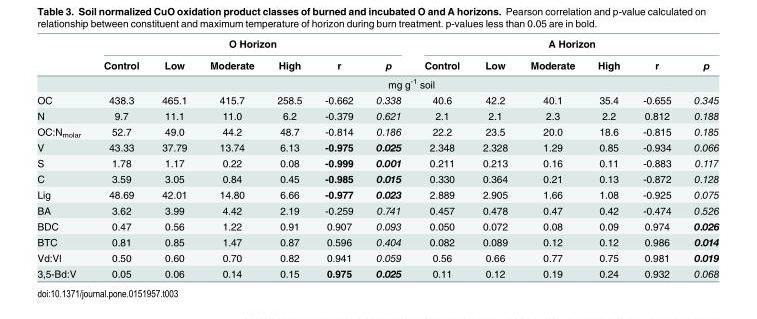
<table><thead><tr><td rowspan="2"></td><td colspan="6">O Horizon</td><td colspan="6">A Horizon</td></tr><tr><td>Control</td><td>Low</td><td>Moderate</td><td>High</td><td>r</td><td>p</td><td>Control</td><td>Low</td><td>Moderate</td><td>High</td><td>r</td><td>p</td></tr></thead><tbody><tr><td></td><td colspan="12">mg g<sup>-1</sup> soil</td></tr><tr><td>OC</td><td>438.3</td><td>465.1</td><td>415.7</td><td>258.5</td><td>-0.662</td><td>0.338</td><td>40.6</td><td>42.2</td><td>40.1</td><td>35.4</td><td>-0.655</td><td>0.345</td></tr><tr><td>N</td><td>9.7</td><td>11.1</td><td>11.0</td><td>6.2</td><td>-0.379</td><td>0.621</td><td>2.1</td><td>2.1</td><td>2.3</td><td>2.2</td><td>0.812</td><td>0.188</td></tr><tr><td>OC:N<sub>molar</sub></td><td>52.7</td><td>49.0</td><td>44.2</td><td>48.7</td><td>-0.814</td><td>0.186</td><td>22.2</td><td>23.5</td><td>20.0</td><td>18.6</td><td>-0.815</td><td>0.185</td></tr><tr><td>V</td><td>43.33</td><td>37.79</td><td>13.74</td><td>6.13</td><td>-0.975</td><td>0.025</td><td>2.348</td><td>2.328</td><td>1.29</td><td>0.85</td><td>-0.934</td><td>0.066</td></tr><tr><td>S</td><td>1.78</td><td>1.17</td><td>0.22</td><td>0.08</td><td>-0.999</td><td>0.001</td><td>0.211</td><td>0.213</td><td>0.16</td><td>0.11</td><td>-0.883</td><td>0.117</td></tr><tr><td>C</td><td>3.59</td><td>3.05</td><td>0.84</td><td>0.45</td><td>-0.985</td><td>0.015</td><td>0.330</td><td>0.364</td><td>0.21</td><td>0.13</td><td>-0.872</td><td>0.128</td></tr><tr><td>Lig</td><td>48.69</td><td>42.01</td><td>14.80</td><td>6.66</td><td>-0.977</td><td>0.023</td><td>2.889</td><td>2.905</td><td>1.66</td><td>1.08</td><td>-0.925</td><td>0.075</td></tr><tr><td>BA</td><td>3.62</td><td>3.99</td><td>4.42</td><td>2.19</td><td>-0.259</td><td>0.741</td><td>0.457</td><td>0.478</td><td>0.47</td><td>0.42</td><td>-0.474</td><td>0.526</td></tr><tr><td>BDC</td><td>0.47</td><td>0.56</td><td>1.22</td><td>0.91</td><td>0.907</td><td>0.093</td><td>0.050</td><td>0.072</td><td>0.08</td><td>0.09</td><td>0.974</td><td>0.026</td></tr><tr><td>BTC</td><td>0.81</td><td>0.85</td><td>1.47</td><td>0.87</td><td>0.596</td><td>0.404</td><td>0.082</td><td>0.089</td><td>0.12</td><td>0.12</td><td>0.986</td><td>0.014</td></tr><tr><td>Vd:Vl</td><td>0.50</td><td>0.60</td><td>0.70</td><td>0.82</td><td>0.941</td><td>0.059</td><td>0.56</td><td>0.66</td><td>0.77</td><td>0.75</td><td>0.981</td><td>0.019</td></tr><tr><td>3,5-Bd:V</td><td>0.05</td><td>0.06</td><td>0.14</td><td>0.15</td><td>0.975</td><td>0.025</td><td>0.11</td><td>0.12</td><td>0.19</td><td>0.24</td><td>0.932</td><td>0.068</td></tr></tbody></table>